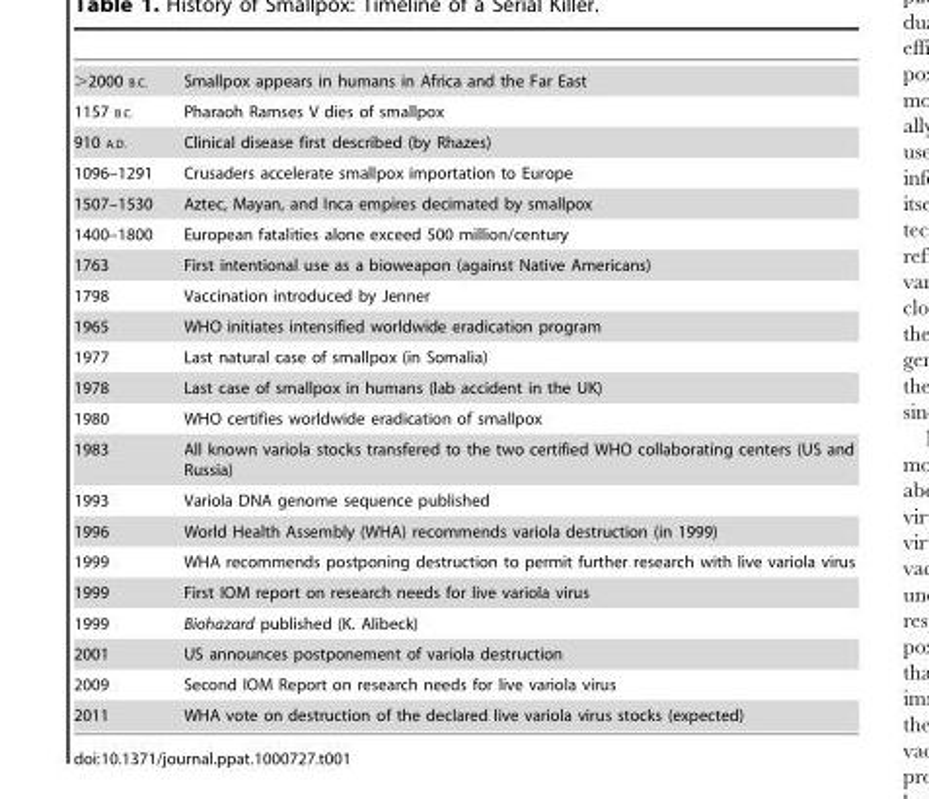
<table><tbody><tr><td>&gt;2000 B.C.</td><td>Smallpox appears in humans in Africa and the Far East</td></tr><tr><td>1157 B.C.</td><td>Pharaoh Ramses V dies of smallpox</td></tr><tr><td>910 A.D.</td><td>Clinical disease first described (by Rhazes)</td></tr><tr><td>1096–1291</td><td>Crusaders accelerate smallpox importation to Europe</td></tr><tr><td>1507–1530</td><td>Aztec, Mayan, and Inca empires decimated by smallpox</td></tr><tr><td>1400–1800</td><td>European fatalities alone exceed 500 million/century</td></tr><tr><td>1763</td><td>First intentional use as a bioweapon (against Native Americans)</td></tr><tr><td>1798</td><td>Vaccination introduced by Jenner</td></tr><tr><td>1965</td><td>WHO initiates intensified worldwide eradication program</td></tr><tr><td>1977</td><td>Last natural case of smallpox (in Somalia)</td></tr><tr><td>1978</td><td>Last case of smallpox in humans (lab accident in the UK)</td></tr><tr><td>1980</td><td>WHO certifies worldwide eradication of smallpox</td></tr><tr><td>1983</td><td>All known variola stocks transfered to the two certified WHO collaborating centers (US and Russia)</td></tr><tr><td>1993</td><td>Variola DNA genome sequence published</td></tr><tr><td>1996</td><td>World Health Assembly (WHA) recommends variola destruction (in 1999)</td></tr><tr><td>1999</td><td>WHA recommends postponing destruction to permit further research with live variola virus</td></tr><tr><td>1999</td><td>First IOM report on research needs for live variola virus</td></tr><tr><td>1999</td><td>Biohazard published (K. Alibeck)</td></tr><tr><td>2001</td><td>US announces postponement of variola destruction</td></tr><tr><td>2009</td><td>Second IOM Report on research needs for live variola virus</td></tr><tr><td>2011</td><td>WHA vote on destruction of the declared live variola virus stocks (expected)</td></tr></tbody></table>